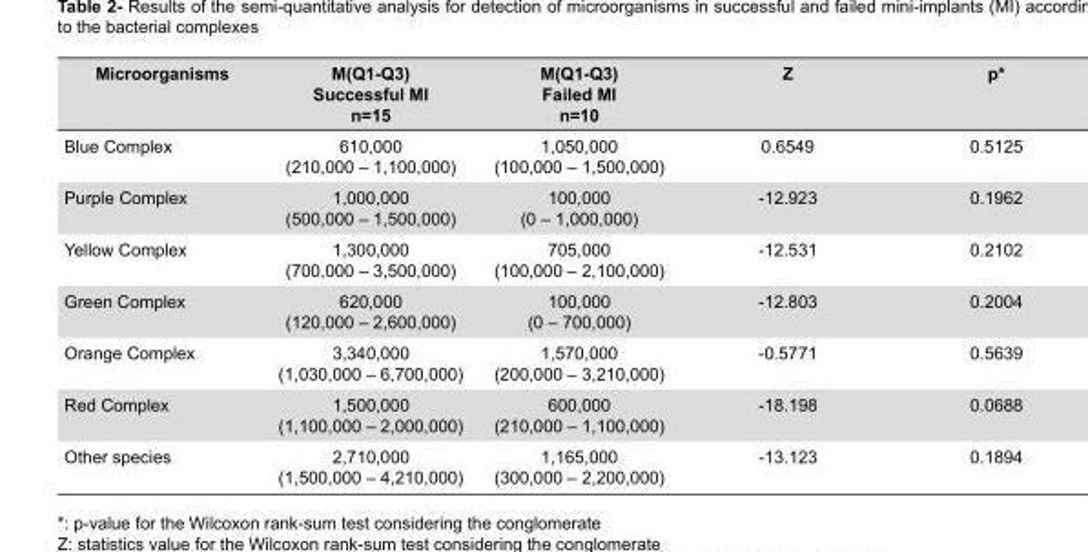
<table><thead><tr><td>Microorganisms</td><td>M(Q1-Q3) Successful MI n=15</td><td>M(Q1-Q3) Failed MI n=10</td><td>Z</td><td>p*</td></tr></thead><tbody><tr><td>Blue Complex</td><td>610,000 (210,000 – 1,100,000)</td><td>1,050,000 (100,000 – 1,500,000)</td><td>0.6549</td><td>0.5125</td></tr><tr><td>Purple Complex</td><td>1,000,000 (500,000 – 1,500,000)</td><td>100,000 (0 – 1,000,000)</td><td>-12.923</td><td>0.1962</td></tr><tr><td>Yellow Complex</td><td>1,300,000 (700,000 – 3,500,000)</td><td>705,000 (100,000 – 2,100,000)</td><td>-12.531</td><td>0.2102</td></tr><tr><td>Green Complex</td><td>620,000 (120,000 – 2,600,000)</td><td>100,000 (0 – 700,000)</td><td>-12.803</td><td>0.2004</td></tr><tr><td>Orange Complex</td><td>3,340,000 (1,030,000 – 6,700,000)</td><td>1,570,000 (200,000 – 3,210,000)</td><td>-0.5771</td><td>0.5639</td></tr><tr><td>Red Complex</td><td>1,500,000 (1,100,000 – 2,000,000)</td><td>600,000 (210,000 – 1,100,000)</td><td>-18.198</td><td>0.0688</td></tr><tr><td>Other species</td><td>2,710,000 (1,500,000 – 4,210,000)</td><td>1,165,000 (300,000 – 2,200,000)</td><td>-13.123</td><td>0.1894</td></tr></tbody></table>